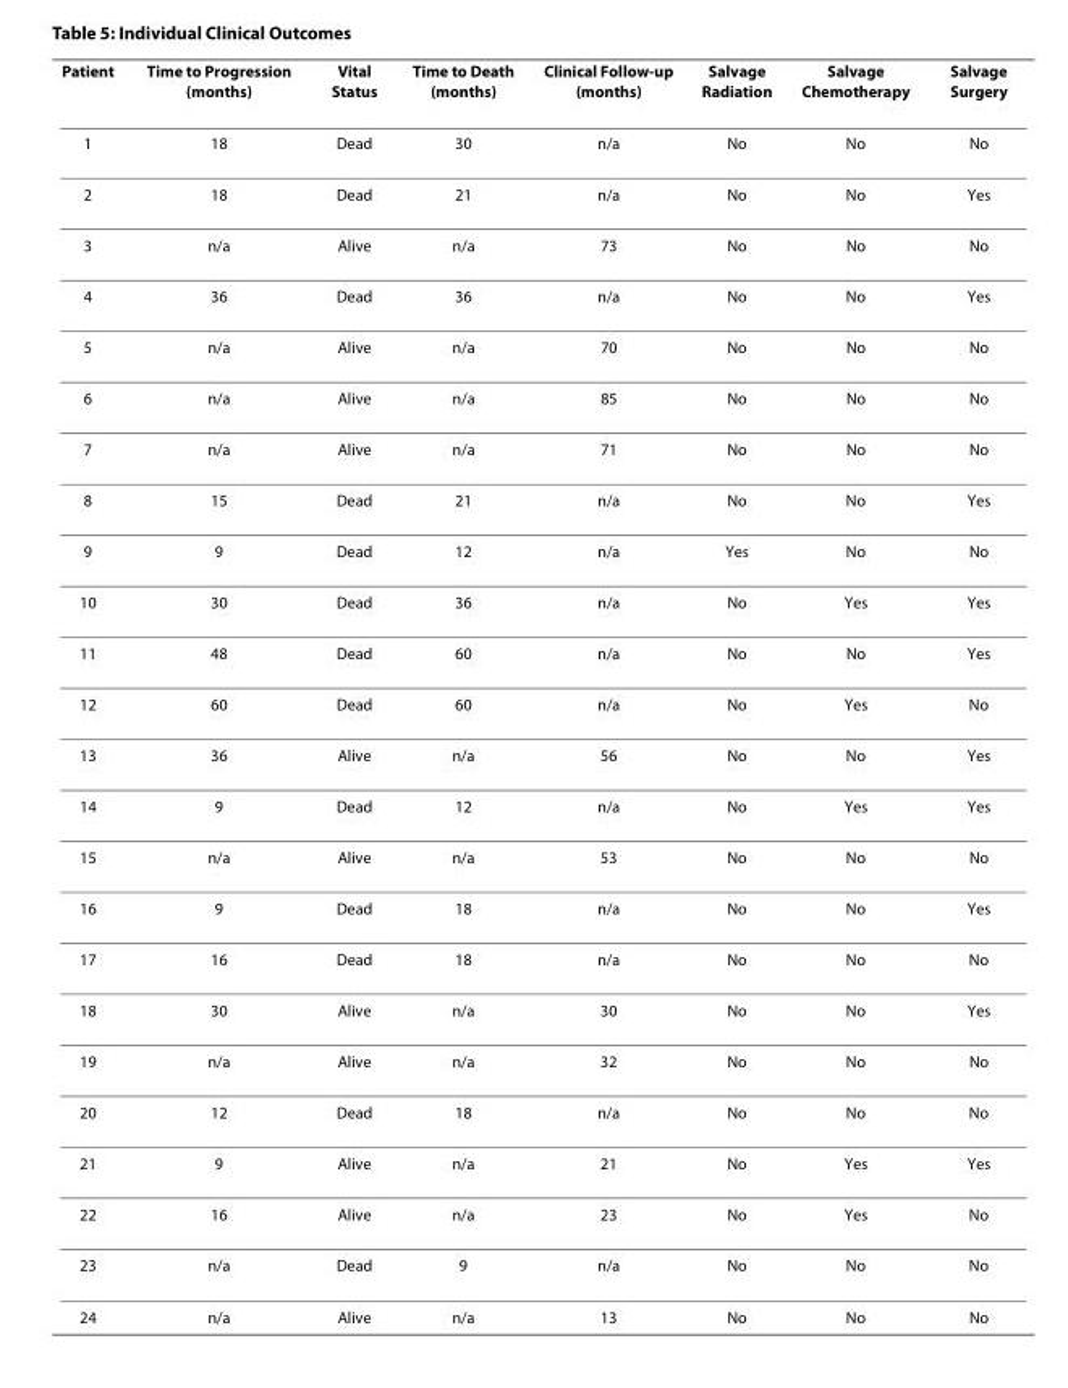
<table><thead><tr><td>Patient</td><td>Time to Progression (months)</td><td>Vital Status</td><td>Time to Death (months)</td><td>Clinical Follow-up (months)</td><td>Salvage Radiation</td><td>Salvage Chemotherapy</td><td>Salvage Surgery</td></tr></thead><tbody><tr><td>1</td><td>18</td><td>Dead</td><td>30</td><td>n/a</td><td>No</td><td>No</td><td>No</td></tr><tr><td>2</td><td>18</td><td>Dead</td><td>21</td><td>n/a</td><td>No</td><td>No</td><td>Yes</td></tr><tr><td>3</td><td>n/a</td><td>Alive</td><td>n/a</td><td>73</td><td>No</td><td>No</td><td>No</td></tr><tr><td>4</td><td>36</td><td>Dead</td><td>36</td><td>n/a</td><td>No</td><td>No</td><td>Yes</td></tr><tr><td>5</td><td>n/a</td><td>Alive</td><td>n/a</td><td>70</td><td>No</td><td>No</td><td>No</td></tr><tr><td>6</td><td>n/a</td><td>Alive</td><td>n/a</td><td>85</td><td>No</td><td>No</td><td>No</td></tr><tr><td>7</td><td>n/a</td><td>Alive</td><td>n/a</td><td>71</td><td>No</td><td>No</td><td>No</td></tr><tr><td>8</td><td>15</td><td>Dead</td><td>21</td><td>n/a</td><td>No</td><td>No</td><td>Yes</td></tr><tr><td>9</td><td>9</td><td>Dead</td><td>12</td><td>n/a</td><td>Yes</td><td>No</td><td>No</td></tr><tr><td>10</td><td>30</td><td>Dead</td><td>36</td><td>n/a</td><td>No</td><td>Yes</td><td>Yes</td></tr><tr><td>11</td><td>48</td><td>Dead</td><td>60</td><td>n/a</td><td>No</td><td>No</td><td>Yes</td></tr><tr><td>12</td><td>60</td><td>Dead</td><td>60</td><td>n/a</td><td>No</td><td>Yes</td><td>No</td></tr><tr><td>13</td><td>36</td><td>Alive</td><td>n/a</td><td>56</td><td>No</td><td>No</td><td>Yes</td></tr><tr><td>14</td><td>9</td><td>Dead</td><td>12</td><td>n/a</td><td>No</td><td>Yes</td><td>Yes</td></tr><tr><td>15</td><td>n/a</td><td>Alive</td><td>n/a</td><td>53</td><td>No</td><td>No</td><td>No</td></tr><tr><td>16</td><td>9</td><td>Dead</td><td>18</td><td>n/a</td><td>No</td><td>No</td><td>Yes</td></tr><tr><td>17</td><td>16</td><td>Dead</td><td>18</td><td>n/a</td><td>No</td><td>No</td><td>No</td></tr><tr><td>18</td><td>30</td><td>Alive</td><td>n/a</td><td>30</td><td>No</td><td>No</td><td>Yes</td></tr><tr><td>19</td><td>n/a</td><td>Alive</td><td>n/a</td><td>32</td><td>No</td><td>No</td><td>No</td></tr><tr><td>20</td><td>12</td><td>Dead</td><td>18</td><td>n/a</td><td>No</td><td>No</td><td>No</td></tr><tr><td>21</td><td>9</td><td>Alive</td><td>n/a</td><td>21</td><td>No</td><td>Yes</td><td>Yes</td></tr><tr><td>22</td><td>16</td><td>Alive</td><td>n/a</td><td>23</td><td>No</td><td>Yes</td><td>No</td></tr><tr><td>23</td><td>n/a</td><td>Dead</td><td>9</td><td>n/a</td><td>No</td><td>No</td><td>No</td></tr><tr><td>24</td><td>n/a</td><td>Alive</td><td>n/a</td><td>13</td><td>No</td><td>No</td><td>No</td></tr></tbody></table>